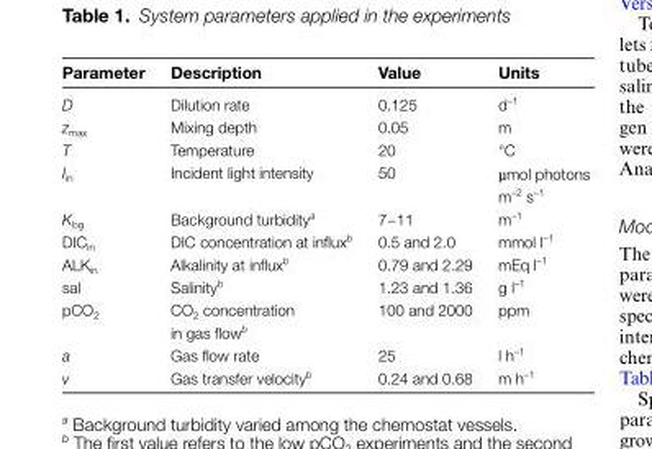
<table><thead><tr><td>Parameter</td><td>Description</td><td>Value</td><td>Units</td></tr></thead><tbody><tr><td>D</td><td>Dilution rate</td><td>0.125</td><td>d<sup>–1</sup></td></tr><tr><td>z<sub>max</sub></td><td>Mixing depth</td><td>0.05</td><td>m</td></tr><tr><td>T</td><td>Temperature</td><td>20</td><td>°C</td></tr><tr><td>I<sub>in</sub></td><td>Incident light intensity</td><td>50</td><td>µmol photons m<sup>–2</sup> s<sup>–1</sup></td></tr><tr><td>K<sub>bg</sub></td><td>Background turbidity<sup>a</sup></td><td>7−11</td><td>m<sup>–1</sup></td></tr><tr><td>DIC<sub>in</sub></td><td>DIC concentration at influx<sup>b</sup></td><td>0.5 and 2.0</td><td>mmol l<sup>–1</sup></td></tr><tr><td>ALK<sub>in</sub></td><td>Alkalinity at influx<sup>b</sup></td><td>0.79 and 2.29</td><td>mEq l<sup>–1</sup></td></tr><tr><td>sal</td><td>Salinity<sup>b</sup></td><td>1.23 and 1.36</td><td>g l<sup>–1</sup></td></tr><tr><td>pCO<sub>2</sub></td><td>CO<sub>2</sub> concentration in gas flow<sup>b</sup></td><td>100 and 2000</td><td>ppm</td></tr><tr><td>a</td><td>Gas flow rate</td><td>25</td><td>l h<sup>–1</sup></td></tr><tr><td>v</td><td>Gas transfer velocity<sup>b</sup></td><td>0.24 and 0.68</td><td>m h<sup>–1</sup></td></tr></tbody></table>